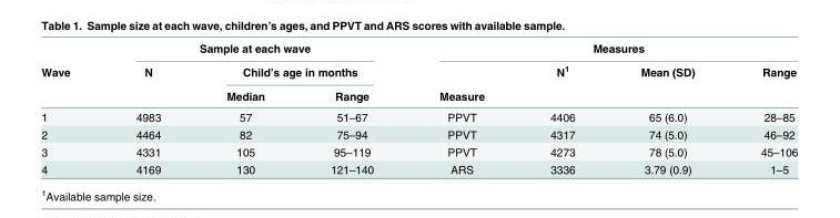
<table><thead><tr><td rowspan="3">Wave</td><td colspan="3">Sample at each wave</td><td colspan="4">Measures</td></tr><tr><td rowspan="2">N</td><td colspan="2">Child’s age in months</td><td rowspan="2">Measure</td><td rowspan="2">N<sup>1</sup></td><td rowspan="2">Mean (SD)</td><td rowspan="2">Range</td></tr><tr><td>Median</td><td>Range</td></tr></thead><tbody><tr><td>1</td><td>4983</td><td>57</td><td>51–67</td><td>PPVT</td><td>4406</td><td>65 (6.0)</td><td>28–85</td></tr><tr><td>2</td><td>4464</td><td>82</td><td>75–94</td><td>PPVT</td><td>4317</td><td>74 (5.0)</td><td>46–92</td></tr><tr><td>3</td><td>4331</td><td>105</td><td>95–119</td><td>PPVT</td><td>4273</td><td>78 (5.0)</td><td>45–106</td></tr><tr><td>4</td><td>4169</td><td>130</td><td>121–140</td><td>ARS</td><td>3336</td><td>3.79 (0.9)</td><td>1–5</td></tr></tbody></table>